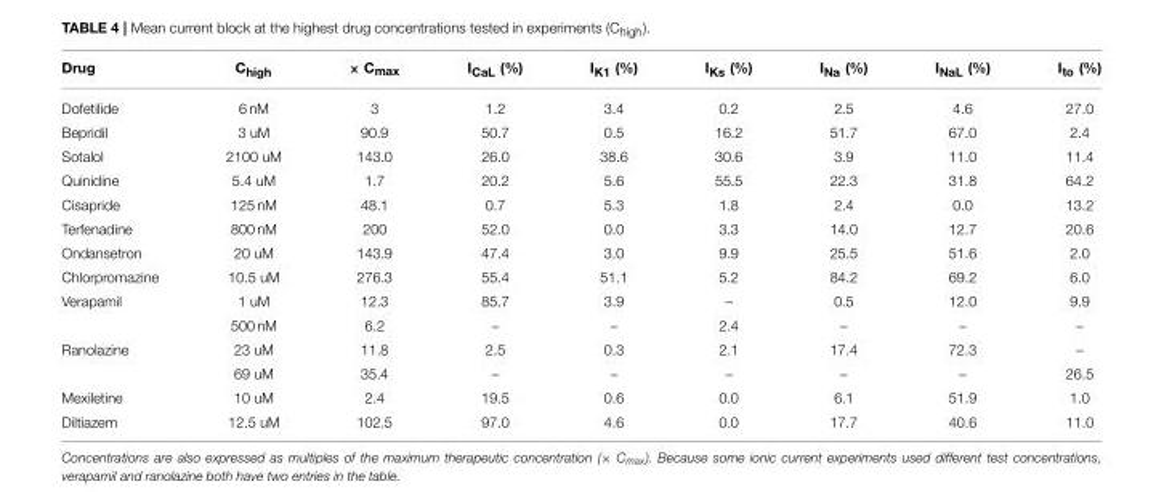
<table><thead><tr><td>Drug</td><td>C<sub>high</sub></td><td>× C<sub>max</sub></td><td>I<sub>CaL</sub> (%)</td><td>I<sub>K1</sub> (%)</td><td>I<sub>Ks</sub> (%)</td><td>I<sub>Na</sub> (%)</td><td>I<sub>NaL</sub> (%)</td><td>I<sub>to</sub> (%)</td></tr></thead><tbody><tr><td>Dofetilide</td><td>6 nM</td><td>3</td><td>1.2</td><td>3.4</td><td>0.2</td><td>2.5</td><td>4.6</td><td>27.0</td></tr><tr><td>Bepridil</td><td>3 uM</td><td>90.9</td><td>50.7</td><td>0.5</td><td>16.2</td><td>51.7</td><td>67.0</td><td>2.4</td></tr><tr><td>Sotalol</td><td>2100 uM</td><td>143.0</td><td>26.0</td><td>38.6</td><td>30.6</td><td>3.9</td><td>11.0</td><td>11.4</td></tr><tr><td>Quinidine</td><td>5.4 uM</td><td>1.7</td><td>20.2</td><td>5.6</td><td>55.5</td><td>22.3</td><td>31.8</td><td>64.2</td></tr><tr><td>Cisapride</td><td>125 nM</td><td>48.1</td><td>0.7</td><td>5.3</td><td>1.8</td><td>2.4</td><td>0.0</td><td>13.2</td></tr><tr><td>Terfenadine</td><td>800 nM</td><td>200</td><td>52.0</td><td>0.0</td><td>3.3</td><td>14.0</td><td>12.7</td><td>20.6</td></tr><tr><td>Ondansetron</td><td>20 uM</td><td>143.9</td><td>47.4</td><td>3.0</td><td>9.9</td><td>25.5</td><td>51.6</td><td>2.0</td></tr><tr><td>Chlorpromazine</td><td>10.5 uM</td><td>276.3</td><td>55.4</td><td>51.1</td><td>5.2</td><td>84.2</td><td>69.2</td><td>6.0</td></tr><tr><td rowspan="2">Verapamil</td><td>1 uM</td><td>12.3</td><td>85.7</td><td>3.9</td><td>–</td><td>0.5</td><td>12.0</td><td>9.9</td></tr><tr><td>500 nM</td><td>6.2</td><td>–</td><td>–</td><td>2.4</td><td>–</td><td>–</td><td>–</td></tr><tr><td rowspan="2">Ranolazine</td><td>23 uM</td><td>11.8</td><td>2.5</td><td>0.3</td><td>2.1</td><td>17.4</td><td>72.3</td><td>–</td></tr><tr><td>69 uM</td><td>35.4</td><td>–</td><td>–</td><td>–</td><td>–</td><td>–</td><td>26.5</td></tr><tr><td>Mexiletine</td><td>10 uM</td><td>2.4</td><td>19.5</td><td>0.6</td><td>0.0</td><td>6.1</td><td>51.9</td><td>1.0</td></tr><tr><td>Diltiazem</td><td>12.5 uM</td><td>102.5</td><td>97.0</td><td>4.6</td><td>0.0</td><td>17.7</td><td>40.6</td><td>11.0</td></tr></tbody></table>